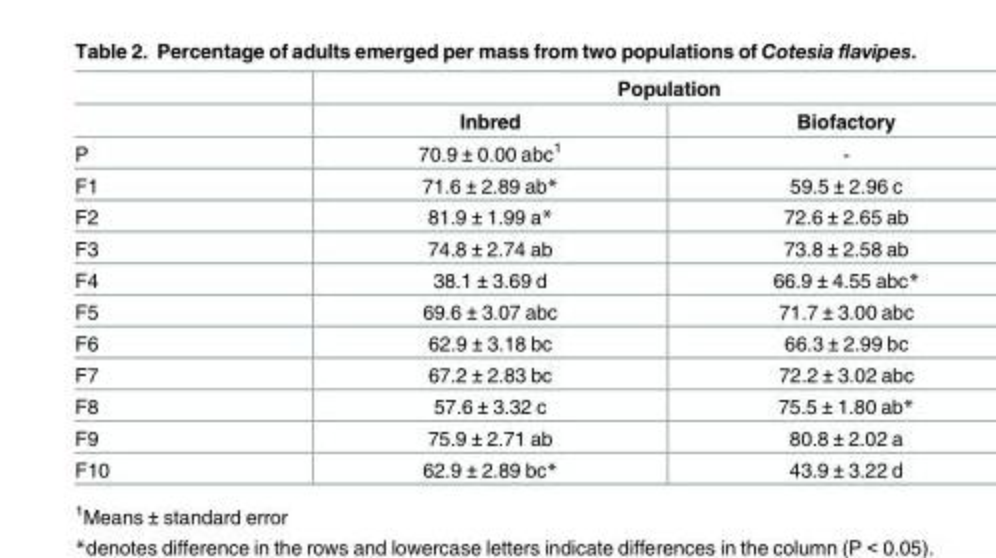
<table><thead><tr><td rowspan="2"></td><td colspan="2">Population</td></tr><tr><td>Inbred</td><td>Biofactory</td></tr></thead><tbody><tr><td>P</td><td>70.9 ± 0.00 abc<sup>1</sup></td><td>-</td></tr><tr><td>F1</td><td>71.6 ± 2.89 ab*</td><td>59.5 ± 2.96 c</td></tr><tr><td>F2</td><td>81.9 ± 1.99 a*</td><td>72.6 ± 2.65 ab</td></tr><tr><td>F3</td><td>74.8 ± 2.74 ab</td><td>73.8 ± 2.58 ab</td></tr><tr><td>F4</td><td>38.1 ± 3.69 d</td><td>66.9 ± 4.55 abc*</td></tr><tr><td>F5</td><td>69.6 ± 3.07 abc</td><td>71.7 ± 3.00 abc</td></tr><tr><td>F6</td><td>62.9 ± 3.18 bc</td><td>66.3 ± 2.99 bc</td></tr><tr><td>F7</td><td>67.2 ± 2.83 bc</td><td>72.2 ± 3.02 abc</td></tr><tr><td>F8</td><td>57.6 ± 3.32 c</td><td>75.5 ± 1.80 ab*</td></tr><tr><td>F9</td><td>75.9 ± 2.71 ab</td><td>80.8 ± 2.02 a</td></tr><tr><td>F10</td><td>62.9 ± 2.89 bc*</td><td>43.9 ± 3.22 d</td></tr></tbody></table>